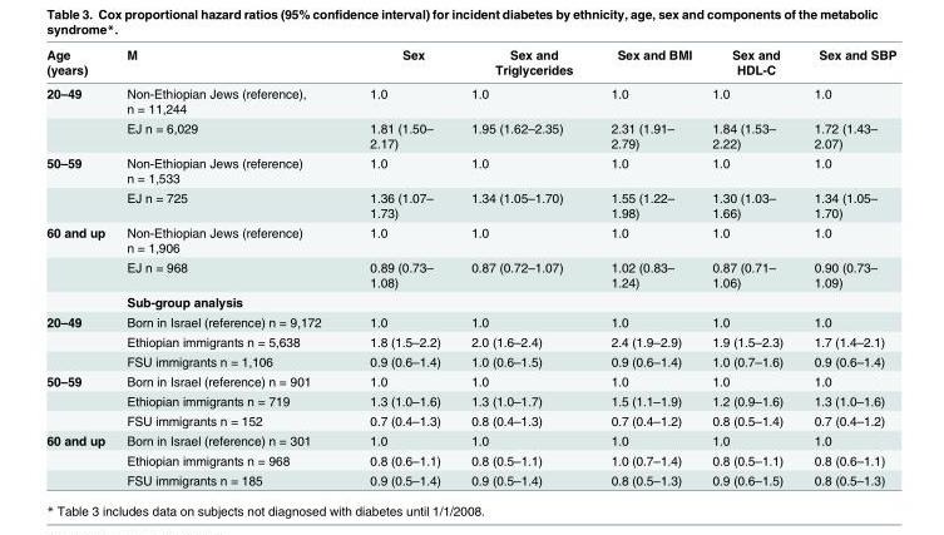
<table><thead><tr><td>Age (years)</td><td>M</td><td>Sex</td><td>Sex and Triglycerides</td><td>Sex and BMI</td><td>Sex and HDL-C</td><td>Sex and SBP</td></tr></thead><tbody><tr><td rowspan="2">20–49</td><td>Non-Ethiopian Jews (reference), n = 11,244</td><td>1.0</td><td>1.0</td><td>1.0</td><td>1.0</td><td>1.0</td></tr><tr><td>EJ n = 6,029</td><td>1.81 (1.50– 2.17)</td><td>1.95 (1.62–2.35)</td><td>2.31 (1.91– 2.79)</td><td>1.84 (1.53– 2.22)</td><td>1.72 (1.43– 2.07)</td></tr><tr><td rowspan="2">50–59</td><td>Non-Ethiopian Jews (reference) n = 1,533</td><td>1.0</td><td>1.0</td><td>1.0</td><td>1.0</td><td>1.0</td></tr><tr><td>EJ n = 725</td><td>1.36 (1.07– 1.73)</td><td>1.34 (1.05–1.70)</td><td>1.55 (1.22– 1.98)</td><td>1.30 (1.03– 1.66)</td><td>1.34 (1.05– 1.70)</td></tr><tr><td rowspan="3">60 and up</td><td>Non-Ethiopian Jews (reference) n = 1,906</td><td>1.0</td><td>1.0</td><td>1.0</td><td>1.0</td><td>1.0</td></tr><tr><td>EJ n = 968</td><td>0.89 (0.73– 1.08)</td><td>0.87 (0.72–1.07)</td><td>1.02 (0.83– 1.24)</td><td>0.87 (0.71– 1.06)</td><td>0.90 (0.73– 1.09)</td></tr><tr><td>Sub-group analysis</td><td></td><td></td><td></td><td></td><td></td></tr><tr><td rowspan="3">20–49</td><td>Born in Israel (reference) n = 9,172</td><td>1.0</td><td>1.0</td><td>1.0</td><td>1.0</td><td>1.0</td></tr><tr><td>Ethiopian immigrants n = 5,638</td><td>1.8 (1.5–2.2)</td><td>2.0 (1.6–2.4)</td><td>2.4 (1.9–2.9)</td><td>1.9 (1.5–2.3)</td><td>1.7 (1.4–2.1)</td></tr><tr><td>FSU immigrants n = 1,106</td><td>0.9 (0.6–1.4)</td><td>1.0 (0.6–1.5)</td><td>0.9 (0.6–1.4)</td><td>1.0 (0.7–1.6)</td><td>0.9 (0.6–1.4)</td></tr><tr><td rowspan="3">50–59</td><td>Born in Israel (reference) n = 901</td><td>1.0</td><td>1.0</td><td>1.0</td><td>1.0</td><td>1.0</td></tr><tr><td>Ethiopian immigrants n = 719</td><td>1.3 (1.0–1.6)</td><td>1.3 (1.0–1.7)</td><td>1.5 (1.1–1.9)</td><td>1.2 (0.9–1.6)</td><td>1.3 (1.0–1.6)</td></tr><tr><td>FSU immigrants n = 152</td><td>0.7 (0.4–1.3)</td><td>0.8 (0.4–1.3)</td><td>0.7 (0.4–1.2)</td><td>0.8 (0.5–1.4)</td><td>0.7 (0.4–1.2)</td></tr><tr><td rowspan="3">60 and up</td><td>Born in Israel (reference) n = 301</td><td>1.0</td><td>1.0</td><td>1.0</td><td>1.0</td><td>1.0</td></tr><tr><td>Ethiopian immigrants n = 968</td><td>0.8 (0.6–1.1)</td><td>0.8 (0.5–1.1)</td><td>1.0 (0.7–1.4)</td><td>0.8 (0.5–1.1)</td><td>0.8 (0.6–1.1)</td></tr><tr><td>FSU immigrants n = 185</td><td>0.9 (0.5–1.4)</td><td>0.9 (0.5–1.4)</td><td>0.8 (0.5–1.3)</td><td>0.9 (0.6–1.5)</td><td>0.8 (0.5–1.3)</td></tr></tbody></table>